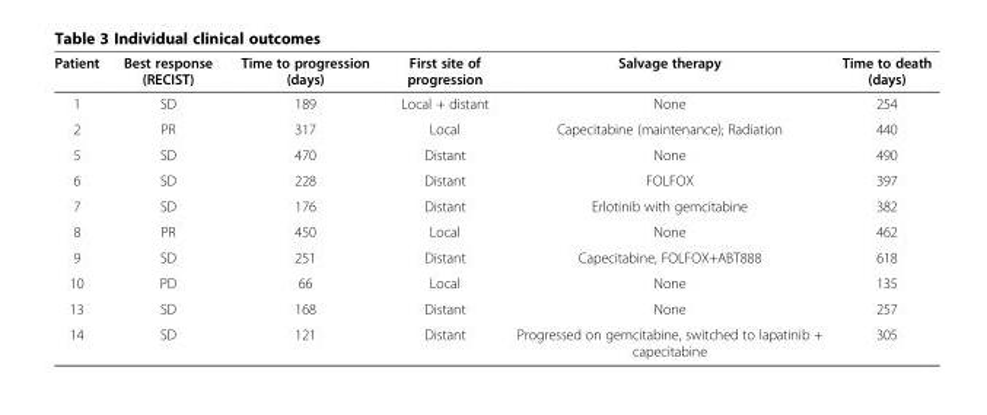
<table><thead><tr><td>Patient</td><td>Best response (RECIST)</td><td>Time to progression (days)</td><td>First site of progression</td><td>Salvage therapy</td><td>Time to death (days)</td></tr></thead><tbody><tr><td>1</td><td>SD</td><td>189</td><td>Local + distant</td><td>None</td><td>254</td></tr><tr><td>2</td><td>PR</td><td>317</td><td>Local</td><td>Capecitabine (maintenance); Radiation</td><td>440</td></tr><tr><td>5</td><td>SD</td><td>470</td><td>Distant</td><td>None</td><td>490</td></tr><tr><td>6</td><td>SD</td><td>228</td><td>Distant</td><td>FOLFOX</td><td>397</td></tr><tr><td>7</td><td>SD</td><td>176</td><td>Distant</td><td>Erlotinib with gemcitabine</td><td>382</td></tr><tr><td>8</td><td>PR</td><td>450</td><td>Local</td><td>None</td><td>462</td></tr><tr><td>9</td><td>SD</td><td>251</td><td>Distant</td><td>Capecitabine, FOLFOX+ABT888</td><td>618</td></tr><tr><td>10</td><td>PD</td><td>66</td><td>Local</td><td>None</td><td>135</td></tr><tr><td>13</td><td>SD</td><td>168</td><td>Distant</td><td>None</td><td>257</td></tr><tr><td>14</td><td>SD</td><td>121</td><td>Distant</td><td>Progressed on gemcitabine, switched to lapatinib + capecitabine</td><td>305</td></tr></tbody></table>